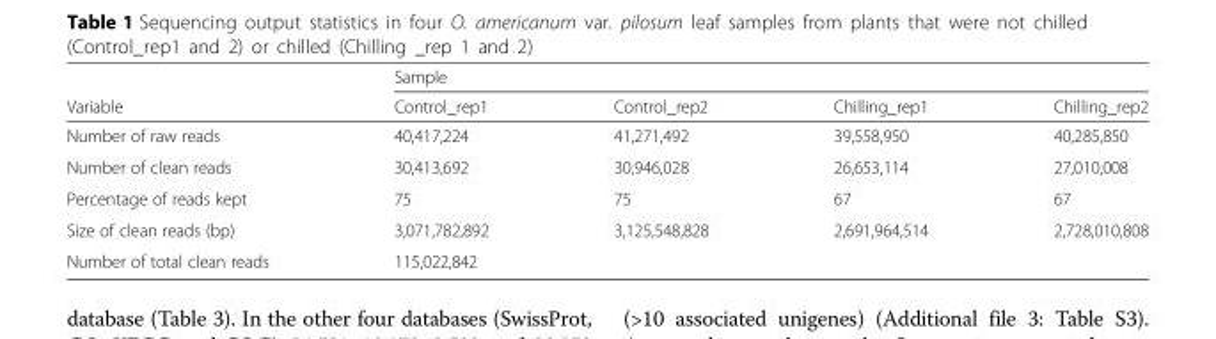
<table><thead><tr><td rowspan="2">Variable</td><td colspan="4">Sample</td></tr><tr><td>Control_rep1</td><td>Control_rep2</td><td>Chilling_rep1</td><td>Chilling_rep2</td></tr></thead><tbody><tr><td>Number of raw reads</td><td>40,417,224</td><td>41,271,492</td><td>39,558,950</td><td>40,285,850</td></tr><tr><td>Number of clean reads</td><td>30,413,692</td><td>30,946,028</td><td>26,653,114</td><td>27,010,008</td></tr><tr><td>Percentage of reads kept</td><td>75</td><td>75</td><td>67</td><td>67</td></tr><tr><td>Size of clean reads (bp)</td><td>3,071,782,892</td><td>3,125,548,828</td><td>2,691,964,514</td><td>2,728,010,808</td></tr><tr><td>Number of total clean reads</td><td colspan="4">115,022,842</td></tr></tbody></table>